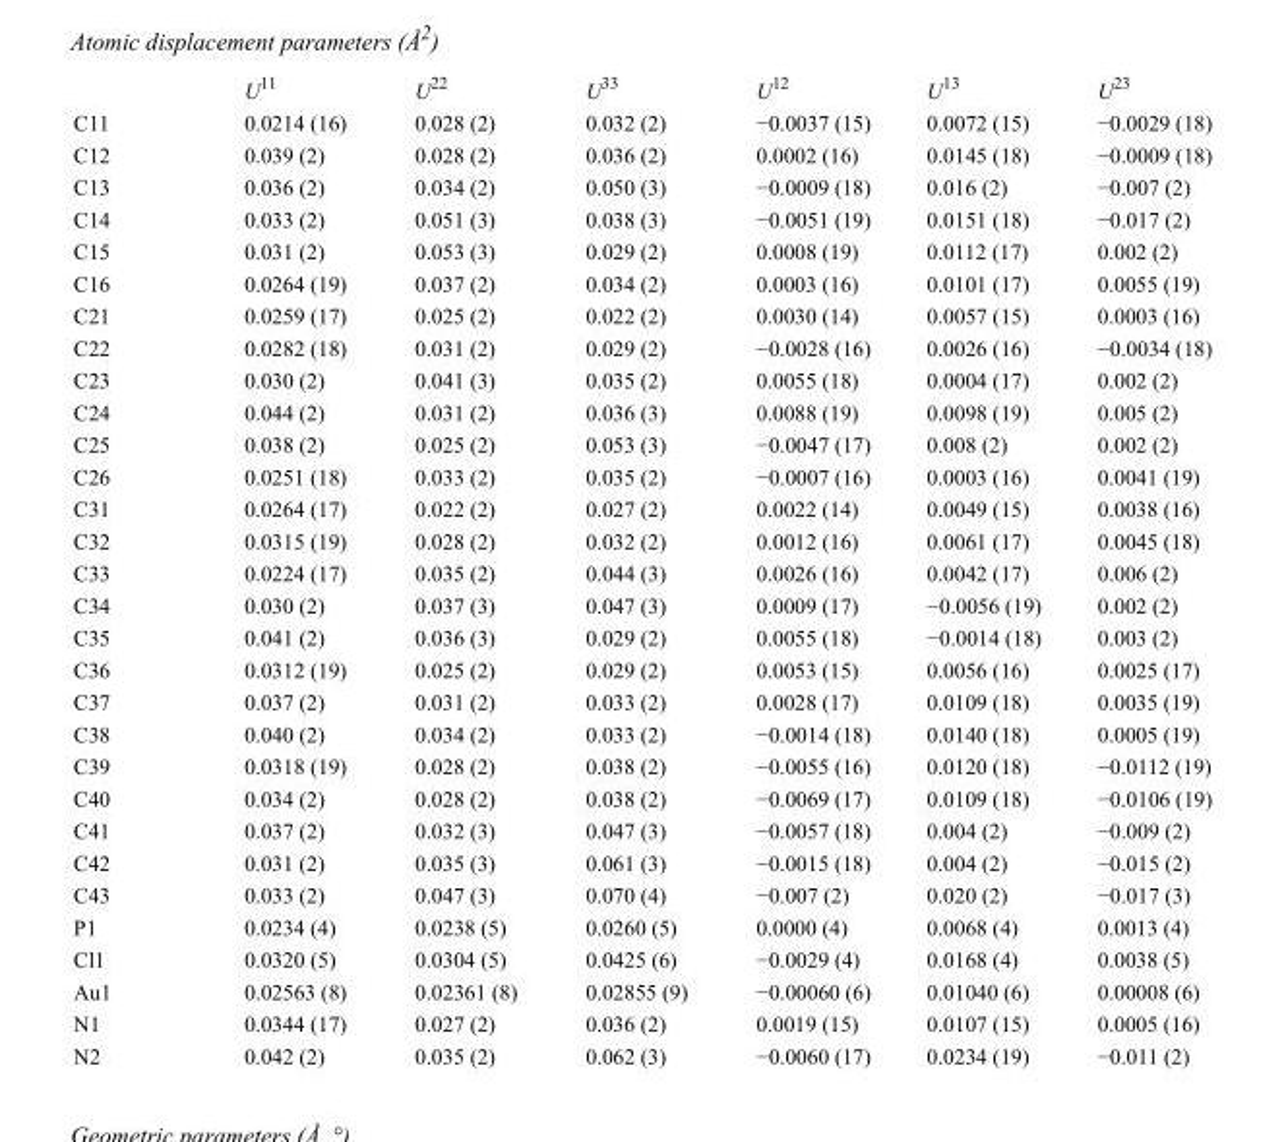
<table><thead><tr><td></td><td>U<sup>11</sup></td><td>U<sup>22</sup></td><td>U<sup>33</sup></td><td>U<sup>12</sup></td><td>U<sup>13</sup></td><td>U<sup>23</sup></td></tr></thead><tbody><tr><td>C11</td><td>0.0214 (16)</td><td>0.028 (2)</td><td>0.032 (2)</td><td>−0.0037 (15)</td><td>0.0072 (15)</td><td>−0.0029 (18)</td></tr><tr><td>C12</td><td>0.039 (2)</td><td>0.028 (2)</td><td>0.036 (2)</td><td>0.0002 (16)</td><td>0.0145 (18)</td><td>−0.0009 (18)</td></tr><tr><td>C13</td><td>0.036 (2)</td><td>0.034 (2)</td><td>0.050 (3)</td><td>−0.0009 (18)</td><td>0.016 (2)</td><td>−0.007 (2)</td></tr><tr><td>C14</td><td>0.033 (2)</td><td>0.051 (3)</td><td>0.038 (3)</td><td>−0.0051 (19)</td><td>0.0151 (18)</td><td>−0.017 (2)</td></tr><tr><td>C15</td><td>0.031 (2)</td><td>0.053 (3)</td><td>0.029 (2)</td><td>0.0008 (19)</td><td>0.0112 (17)</td><td>0.002 (2)</td></tr><tr><td>C16</td><td>0.0264 (19)</td><td>0.037 (2)</td><td>0.034 (2)</td><td>0.0003 (16)</td><td>0.0101 (17)</td><td>0.0055 (19)</td></tr><tr><td>C21</td><td>0.0259 (17)</td><td>0.025 (2)</td><td>0.022 (2)</td><td>0.0030 (14)</td><td>0.0057 (15)</td><td>0.0003 (16)</td></tr><tr><td>C22</td><td>0.0282 (18)</td><td>0.031 (2)</td><td>0.029 (2)</td><td>−0.0028 (16)</td><td>0.0026 (16)</td><td>−0.0034 (18)</td></tr><tr><td>C23</td><td>0.030 (2)</td><td>0.041 (3)</td><td>0.035 (2)</td><td>0.0055 (18)</td><td>0.0004 (17)</td><td>0.002 (2)</td></tr><tr><td>C24</td><td>0.044 (2)</td><td>0.031 (2)</td><td>0.036 (3)</td><td>0.0088 (19)</td><td>0.0098 (19)</td><td>0.005 (2)</td></tr><tr><td>C25</td><td>0.038 (2)</td><td>0.025 (2)</td><td>0.053 (3)</td><td>−0.0047 (17)</td><td>0.008 (2)</td><td>0.002 (2)</td></tr><tr><td>C26</td><td>0.0251 (18)</td><td>0.033 (2)</td><td>0.035 (2)</td><td>−0.0007 (16)</td><td>0.0003 (16)</td><td>0.0041 (19)</td></tr><tr><td>C31</td><td>0.0264 (17)</td><td>0.022 (2)</td><td>0.027 (2)</td><td>0.0022 (14)</td><td>0.0049 (15)</td><td>0.0038 (16)</td></tr><tr><td>C32</td><td>0.0315 (19)</td><td>0.028 (2)</td><td>0.032 (2)</td><td>0.0012 (16)</td><td>0.0061 (17)</td><td>0.0045 (18)</td></tr><tr><td>C33</td><td>0.0224 (17)</td><td>0.035 (2)</td><td>0.044 (3)</td><td>0.0026 (16)</td><td>0.0042 (17)</td><td>0.006 (2)</td></tr><tr><td>C34</td><td>0.030 (2)</td><td>0.037 (3)</td><td>0.047 (3)</td><td>0.0009 (17)</td><td>−0.0056 (19)</td><td>0.002 (2)</td></tr><tr><td>C35</td><td>0.041 (2)</td><td>0.036 (3)</td><td>0.029 (2)</td><td>0.0055 (18)</td><td>−0.0014 (18)</td><td>0.003 (2)</td></tr><tr><td>C36</td><td>0.0312 (19)</td><td>0.025 (2)</td><td>0.029 (2)</td><td>0.0053 (15)</td><td>0.0056 (16)</td><td>0.0025 (17)</td></tr><tr><td>C37</td><td>0.037 (2)</td><td>0.031 (2)</td><td>0.033 (2)</td><td>0.0028 (17)</td><td>0.0109 (18)</td><td>0.0035 (19)</td></tr><tr><td>C38</td><td>0.040 (2)</td><td>0.034 (2)</td><td>0.033 (2)</td><td>−0.0014 (18)</td><td>0.0140 (18)</td><td>0.0005 (19)</td></tr><tr><td>C39</td><td>0.0318 (19)</td><td>0.028 (2)</td><td>0.038 (2)</td><td>−0.0055 (16)</td><td>0.0120 (18)</td><td>−0.0112 (19)</td></tr><tr><td>C40</td><td>0.034 (2)</td><td>0.028 (2)</td><td>0.038 (2)</td><td>−0.0069 (17)</td><td>0.0109 (18)</td><td>−0.0106 (19)</td></tr><tr><td>C41</td><td>0.037 (2)</td><td>0.032 (3)</td><td>0.047 (3)</td><td>−0.0057 (18)</td><td>0.004 (2)</td><td>−0.009 (2)</td></tr><tr><td>C42</td><td>0.031 (2)</td><td>0.035 (3)</td><td>0.061 (3)</td><td>−0.0015 (18)</td><td>0.004 (2)</td><td>−0.015 (2)</td></tr><tr><td>C43</td><td>0.033 (2)</td><td>0.047 (3)</td><td>0.070 (4)</td><td>−0.007 (2)</td><td>0.020 (2)</td><td>−0.017 (3)</td></tr><tr><td>P1</td><td>0.0234 (4)</td><td>0.0238 (5)</td><td>0.0260 (5)</td><td>0.0000 (4)</td><td>0.0068 (4)</td><td>0.0013 (4)</td></tr><tr><td>Cl1</td><td>0.0320 (5)</td><td>0.0304 (5)</td><td>0.0425 (6)</td><td>−0.0029 (4)</td><td>0.0168 (4)</td><td>0.0038 (5)</td></tr><tr><td>Au1</td><td>0.02563 (8)</td><td>0.02361 (8)</td><td>0.02855 (9)</td><td>−0.00060 (6)</td><td>0.01040 (6)</td><td>0.00008 (6)</td></tr><tr><td>N1</td><td>0.0344 (17)</td><td>0.027 (2)</td><td>0.036 (2)</td><td>0.0019 (15)</td><td>0.0107 (15)</td><td>0.0005 (16)</td></tr><tr><td>N2</td><td>0.042 (2)</td><td>0.035 (2)</td><td>0.062 (3)</td><td>−0.0060 (17)</td><td>0.0234 (19)</td><td>−0.011 (2)</td></tr></tbody></table>